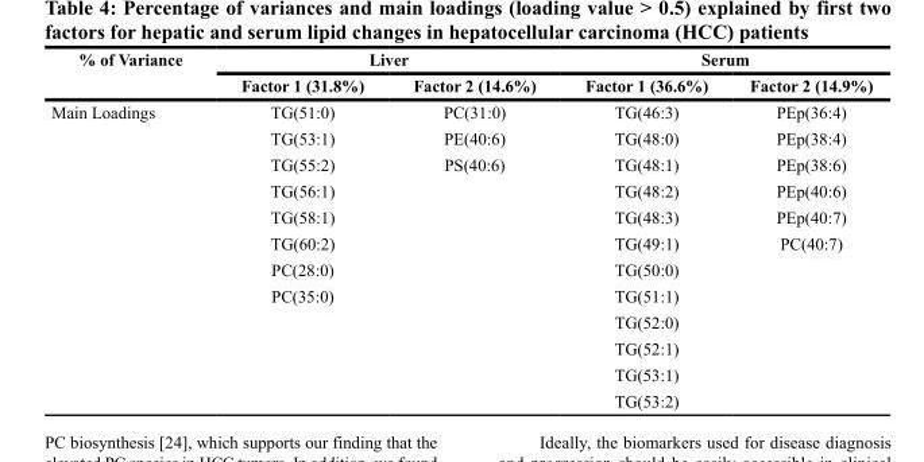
<table><thead><tr><td rowspan="2">% of Variance</td><td colspan="2">Liver</td><td colspan="2">Serum</td></tr><tr><td>Factor 1 (31.8%)</td><td>Factor 2 (14.6%)</td><td>Factor 1 (36.6%)</td><td>Factor 2 (14.9%)</td></tr></thead><tbody><tr><td rowspan="12">Main Loadings</td><td>TG(51:0)</td><td>PC(31:0)</td><td>TG(46:3)</td><td>PEp(36:4)</td></tr><tr><td>TG(53:1)</td><td>PE(40:6)</td><td>TG(48:0)</td><td>PEp(38:4)</td></tr><tr><td>TG(55:2)</td><td>PS(40:6)</td><td>TG(48:1)</td><td>PEp(38:6)</td></tr><tr><td>TG(56:1)</td><td></td><td>TG(48:2)</td><td>PEp(40:6)</td></tr><tr><td>TG(58:1)</td><td></td><td>TG(48:3)</td><td>PEp(40:7)</td></tr><tr><td>TG(60:2)</td><td></td><td>TG(49:1)</td><td>PC(40:7)</td></tr><tr><td>PC(28:0)</td><td></td><td>TG(50:0)</td><td></td></tr><tr><td>PC(35:0)</td><td></td><td>TG(51:1)</td><td></td></tr><tr><td></td><td></td><td>TG(52:0)</td><td></td></tr><tr><td></td><td></td><td>TG(52:1)</td><td></td></tr><tr><td></td><td></td><td>TG(53:1)</td><td></td></tr><tr><td></td><td></td><td>TG(53:2)</td><td></td></tr></tbody></table>